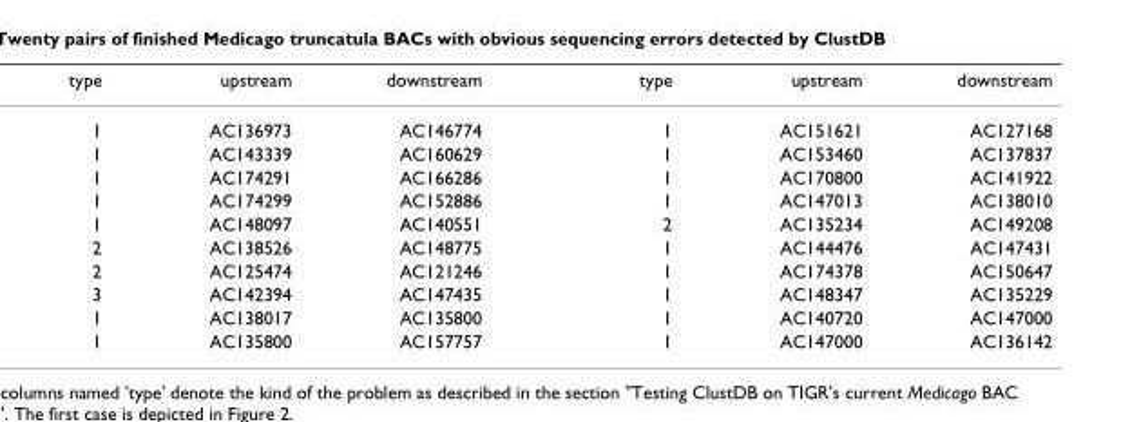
<table><thead><tr><td>type</td><td>upstream</td><td>downstream</td><td>type</td><td>upstream</td><td>downstream</td></tr></thead><tbody><tr><td>1</td><td>AC136973</td><td>AC146774</td><td>1</td><td>AC151621</td><td>AC127168</td></tr><tr><td>1</td><td>AC143339</td><td>AC160629</td><td>1</td><td>AC153460</td><td>AC137837</td></tr><tr><td>1</td><td>AC174291</td><td>AC166286</td><td>1</td><td>AC170800</td><td>AC141922</td></tr><tr><td>1</td><td>AC174299</td><td>AC152886</td><td>1</td><td>AC147013</td><td>AC138010</td></tr><tr><td>1</td><td>AC148097</td><td>AC140551</td><td>2</td><td>AC135234</td><td>AC149208</td></tr><tr><td>2</td><td>AC138526</td><td>AC148775</td><td>1</td><td>AC144476</td><td>AC147431</td></tr><tr><td>2</td><td>AC125474</td><td>AC121246</td><td>1</td><td>AC174378</td><td>AC150647</td></tr><tr><td>3</td><td>AC142394</td><td>AC147435</td><td>1</td><td>AC148347</td><td>AC135229</td></tr><tr><td>1</td><td>AC138017</td><td>AC135800</td><td>1</td><td>AC140720</td><td>AC147000</td></tr><tr><td>1</td><td>AC135800</td><td>AC157757</td><td>1</td><td>AC147000</td><td>AC136142</td></tr></tbody></table>